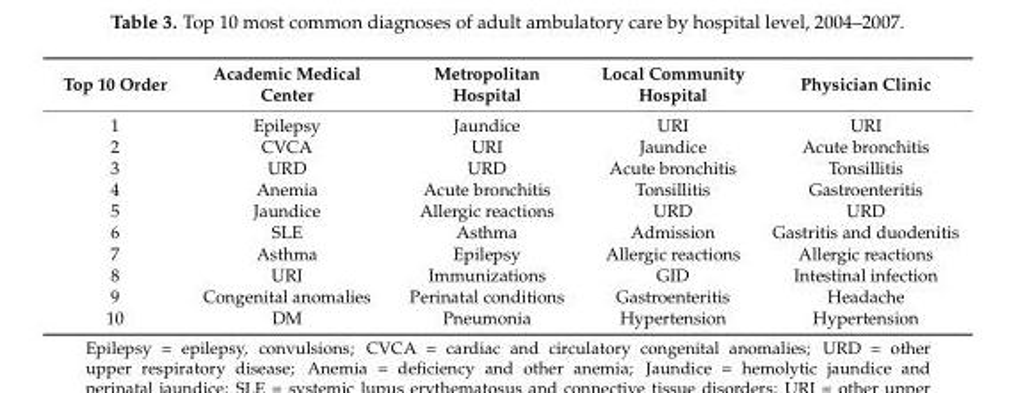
<table><thead><tr><td>Top 10 Order</td><td>Academic Medical Center</td><td>Metropolitan Hospital</td><td>Local Community Hospital</td><td>Physician Clinic</td></tr></thead><tbody><tr><td>1</td><td>Epilepsy</td><td>Jaundice</td><td>URI</td><td>URI</td></tr><tr><td>2</td><td>CVCA</td><td>URI</td><td>Jaundice</td><td>Acute bronchitis</td></tr><tr><td>3</td><td>URD</td><td>URD</td><td>Acute bronchitis</td><td>Tonsillitis</td></tr><tr><td>4</td><td>Anemia</td><td>Acute bronchitis</td><td>Tonsillitis</td><td>Gastroenteritis</td></tr><tr><td>5</td><td>Jaundice</td><td>Allergic reactions</td><td>URD</td><td>URD</td></tr><tr><td>6</td><td>SLE</td><td>Asthma</td><td>Admission</td><td>Gastritis and duodenitis</td></tr><tr><td>7</td><td>Asthma</td><td>Epilepsy</td><td>Allergic reactions</td><td>Allergic reactions</td></tr><tr><td>8</td><td>URI</td><td>Immunizations</td><td>GID</td><td>Intestinal infection</td></tr><tr><td>9</td><td>Congenital anomalies</td><td>Perinatal conditions</td><td>Gastroenteritis</td><td>Headache</td></tr><tr><td>10</td><td>DM</td><td>Pneumonia</td><td>Hypertension</td><td>Hypertension</td></tr></tbody></table>